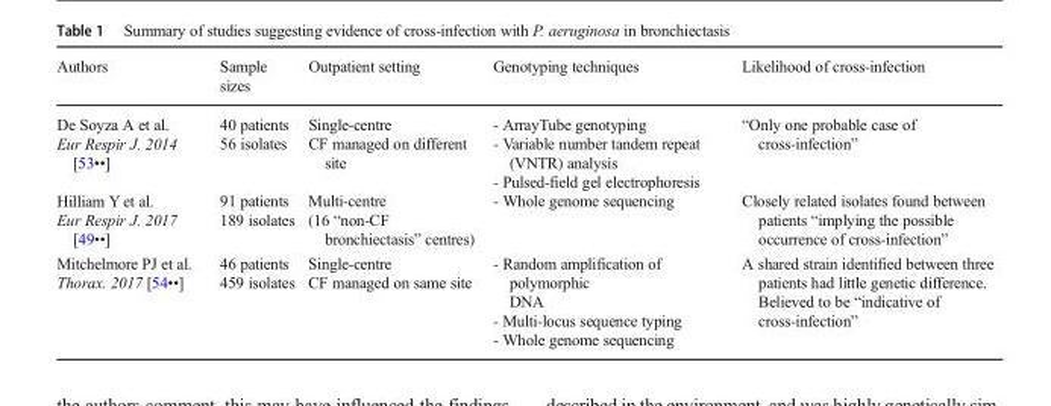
<table><thead><tr><td>Authors</td><td>Sample sizes</td><td>Outpatient setting</td><td>Genotyping techniques</td><td>Likelihood of cross-infection</td></tr></thead><tbody><tr><td>De Soyza A et al. Eur Respir J. 2014 [53••]</td><td>40 patients 56 isolates</td><td>Single-centre CF managed on different site</td><td>- ArrayTube genotyping - Variable number tandem repeat (VNTR) analysis - Pulsed-field gel electrophoresis</td><td>“Only one probable case of cross-infection”</td></tr><tr><td>Hilliam Y et al. Eur Respir J. 2017 [49••]</td><td>91 patients 189 isolates</td><td>Multi-centre (16 “non-CF bronchiectasis” centres)</td><td>- Whole genome sequencing</td><td>Closely related isolates found between patients “implying the possible occurrence of cross-infection”</td></tr><tr><td>Mitchelmore PJ et al. Thorax. 2017 [54••]</td><td>46 patients 459 isolates</td><td>Single-centre CF managed on same site</td><td>- Random amplification of polymorphic DNA - Multi-locus sequence typing - Whole genome sequencing</td><td>A shared strain identified between three patients had little genetic difference. Believed to be “indicative of cross-infection”</td></tr></tbody></table>